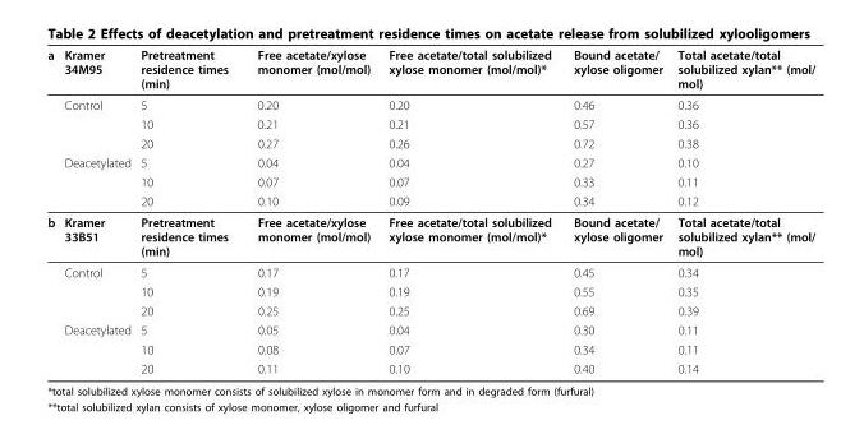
<table><thead><tr><td>a</td><td>Kramer 34M95</td><td>Pretreatment residence times (min)</td><td>Free acetate/xylose monomer (mol/mol)</td><td>Free acetate/total solubilized xylose monomer (mol/mol)*</td><td>Bound acetate/ xylose oligomer</td><td>Total acetate/total solubilized xylan** (mol/ mol)</td></tr></thead><tbody><tr><td></td><td>Control</td><td>5</td><td>0.20</td><td>0.20</td><td>0.46</td><td>0.36</td></tr><tr><td></td><td></td><td>10</td><td>0.21</td><td>0.21</td><td>0.57</td><td>0.36</td></tr><tr><td></td><td></td><td>20</td><td>0.27</td><td>0.26</td><td>0.72</td><td>0.38</td></tr><tr><td></td><td>Deacetylated</td><td>5</td><td>0.04</td><td>0.04</td><td>0.27</td><td>0.10</td></tr><tr><td></td><td></td><td>10</td><td>0.07</td><td>0.07</td><td>0.33</td><td>0.11</td></tr><tr><td></td><td></td><td>20</td><td>0.10</td><td>0.09</td><td>0.34</td><td>0.12</td></tr><tr><td rowspan="7">b</td><td>Kramer 33B51</td><td>Pretreatment residence times (min)</td><td>Free acetate/xylose monomer (mol/mol)</td><td>Free acetate/total solubilized xylose monomer (mol/mol)*</td><td>Bound acetate/ xylose oligomer</td><td>Total acetate/total solubilized xylan** (mol/ mol)</td></tr><tr><td>Control</td><td>5</td><td>0.17</td><td>0.17</td><td>0.45</td><td>0.34</td></tr><tr><td></td><td>10</td><td>0.19</td><td>0.19</td><td>0.55</td><td>0.35</td></tr><tr><td></td><td>20</td><td>0.25</td><td>0.25</td><td>0.69</td><td>0.39</td></tr><tr><td>Deacetylated</td><td>5</td><td>0.05</td><td>0.04</td><td>0.30</td><td>0.11</td></tr><tr><td></td><td>10</td><td>0.08</td><td>0.07</td><td>0.34</td><td>0.11</td></tr><tr><td></td><td>20</td><td>0.11</td><td>0.10</td><td>0.40</td><td>0.14</td></tr></tbody></table>